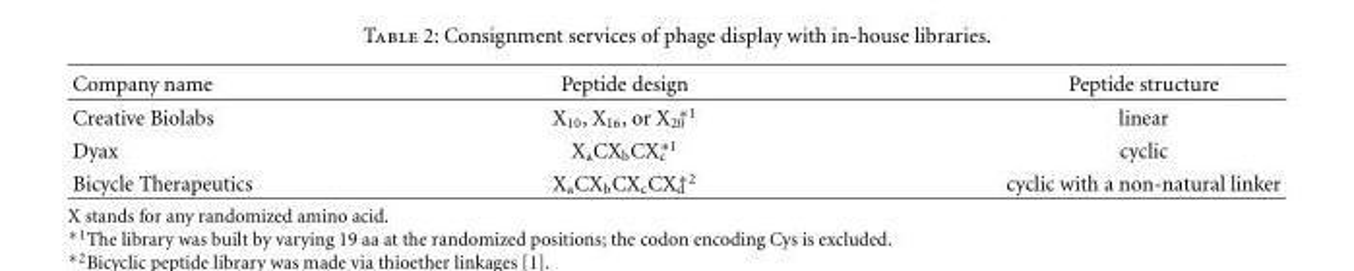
<table><thead><tr><td>Company name</td><td>Peptide design</td><td>Peptide structure</td></tr></thead><tbody><tr><td>Creative Biolabs</td><td>X<sub>10</sub>, X<sub>16</sub>, or X<sub>20</sub><sup>∗1</sup></td><td>linear</td></tr><tr><td>Dyax</td><td>X<sub>a</sub>CX<sub>b</sub>CX<sub>c</sub><sup>∗1</sup></td><td>cyclic</td></tr><tr><td>Bicycle Therapeutics</td><td>X<sub>a</sub>CX<sub>b</sub>CX<sub>c</sub>CX<sub>d</sub><sup>∗2</sup></td><td>cyclic with a non-natural linker</td></tr></tbody></table>